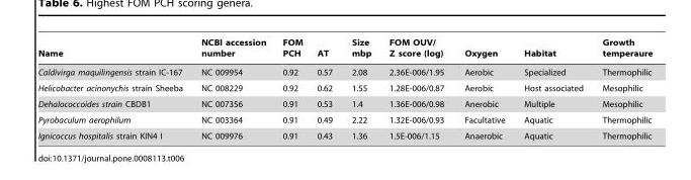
<table><thead><tr><td>Name</td><td>NCBI accession number</td><td>FOM PCH</td><td>AT</td><td>Size mbp</td><td>FOM OUV/ Z score (log)</td><td>Oxygen</td><td>Habitat</td><td>Growth temperaure</td></tr></thead><tbody><tr><td>Caldivirga maquilingensis strain IC-167</td><td>NC 009954</td><td>0.92</td><td>0.57</td><td>2.08</td><td>2.36E-006/1.95</td><td>Aerobic</td><td>Specialized</td><td>Thermophilic</td></tr><tr><td>Helicobacter acinonychis strain Sheeba</td><td>NC 008229</td><td>0.92</td><td>0.62</td><td>1.55</td><td>1.28E-006/0.87</td><td>Aerobic</td><td>Host associated</td><td>Mesophilic</td></tr><tr><td>Dehalococcoides strain CBDB1</td><td>NC 007356</td><td>0.91</td><td>0.53</td><td>1.4</td><td>1.36E-006/0.98</td><td>Anerobic</td><td>Multiple</td><td>Mesophilic</td></tr><tr><td>Pyrobaculum aerophilum</td><td>NC 003364</td><td>0.91</td><td>0.49</td><td>2.22</td><td>1.32E-006/0.93</td><td>Facultative</td><td>Aquatic</td><td>Thermophilic</td></tr><tr><td>Ignicoccus hospitalis strain KIN4 I</td><td>NC 009976</td><td>0.91</td><td>0.43</td><td>1.36</td><td>1.5E-006/1.15</td><td>Anaerobic</td><td>Aquatic</td><td>Thermophilic</td></tr></tbody></table>